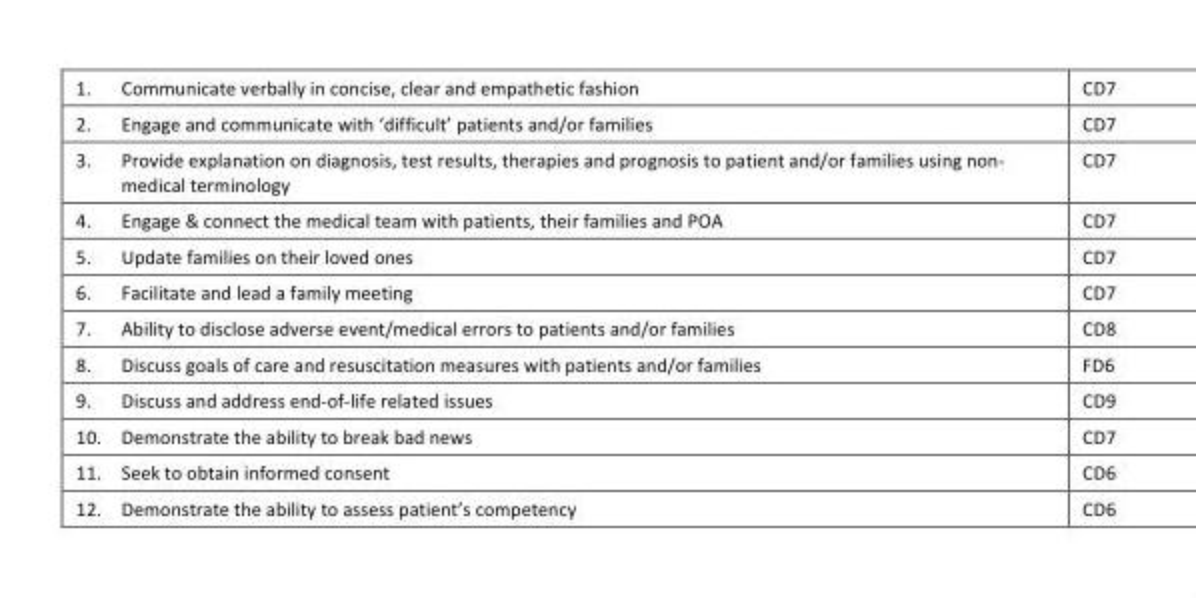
<table><tbody><tr><td>1.</td><td>Communicate verbally in concise, clear and empathetic fashion</td><td>CD7</td></tr><tr><td>2.</td><td>Engage and communicate with ‘difficult’ patients and/or families</td><td>CD7</td></tr><tr><td>3.</td><td>Provide explanation on diagnosis, test results, therapies and prognosis to patient and/or families using non- medical terminology</td><td>CD7</td></tr><tr><td>4.</td><td>Engage &amp; connect the medical team with patients, their families and POA</td><td>CD7</td></tr><tr><td>5.</td><td>Update families on their loved ones</td><td>CD7</td></tr><tr><td>6.</td><td>Facilitate and lead a family meeting</td><td>CD7</td></tr><tr><td>7.</td><td>Ability to disclose adverse event/medical errors to patients and/or families</td><td>CD8</td></tr><tr><td>8.</td><td>Discuss goals of care and resuscitation measures with patients and/or families</td><td>FD6</td></tr><tr><td>9.</td><td>Discuss and address end-of-life related issues</td><td>CD9</td></tr><tr><td>10.</td><td>Demonstrate the ability to break bad news</td><td>CD7</td></tr><tr><td>11.</td><td>Seek to obtain informed consent</td><td>CD6</td></tr><tr><td>12.</td><td>Demonstrate the ability to assess patient’s competency</td><td>CD6</td></tr></tbody></table>